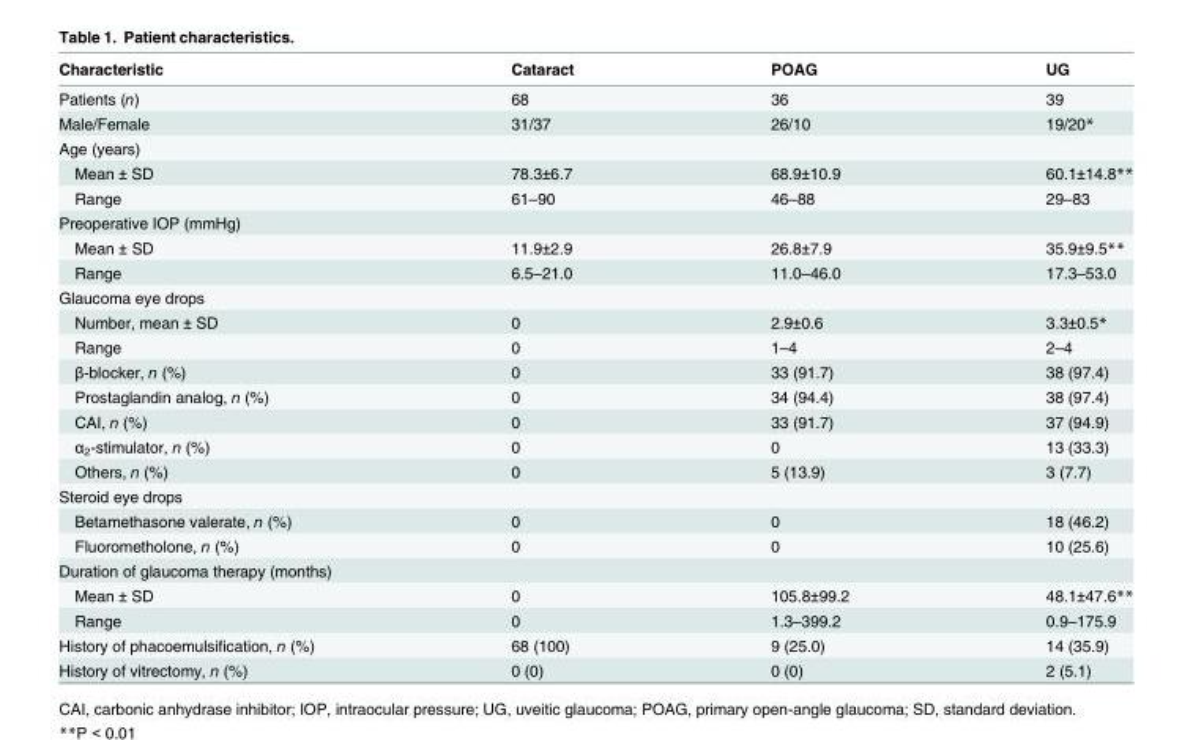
<table><thead><tr><td>Characteristic</td><td>Cataract</td><td>POAG</td><td>UG</td></tr></thead><tbody><tr><td>Patients (n)</td><td>68</td><td>36</td><td>39</td></tr><tr><td>Male/Female</td><td>31/37</td><td>26/10</td><td>19/20*</td></tr><tr><td colspan="4">Age (years)</td></tr><tr><td>Mean ± SD</td><td>78.3±6.7</td><td>68.9±10.9</td><td>60.1±14.8**</td></tr><tr><td>Range</td><td>61–90</td><td>46–88</td><td>29–83</td></tr><tr><td colspan="4">Preoperative IOP (mmHg)</td></tr><tr><td>Mean ± SD</td><td>11.9±2.9</td><td>26.8±7.9</td><td>35.9±9.5**</td></tr><tr><td>Range</td><td>6.5–21.0</td><td>11.0–46.0</td><td>17.3–53.0</td></tr><tr><td colspan="4">Glaucoma eye drops</td></tr><tr><td>Number, mean ± SD</td><td>0</td><td>2.9±0.6</td><td>3.3±0.5*</td></tr><tr><td>Range</td><td>0</td><td>1–4</td><td>2–4</td></tr><tr><td>β-blocker, n (%)</td><td>0</td><td>33 (91.7)</td><td>38 (97.4)</td></tr><tr><td>Prostaglandin analog, n (%)</td><td>0</td><td>34 (94.4)</td><td>38 (97.4)</td></tr><tr><td>CAI, n (%)</td><td>0</td><td>33 (91.7)</td><td>37 (94.9)</td></tr><tr><td>α<sub>2</sub>-stimulator, n (%)</td><td>0</td><td>0</td><td>13 (33.3)</td></tr><tr><td>Others, n (%)</td><td>0</td><td>5 (13.9)</td><td>3 (7.7)</td></tr><tr><td colspan="4">Steroid eye drops</td></tr><tr><td>Betamethasone valerate, n (%)</td><td>0</td><td>0</td><td>18 (46.2)</td></tr><tr><td>Fluorometholone, n (%)</td><td>0</td><td>0</td><td>10 (25.6)</td></tr><tr><td colspan="4">Duration of glaucoma therapy (months)</td></tr><tr><td>Mean ± SD</td><td>0</td><td>105.8±99.2</td><td>48.1±47.6**</td></tr><tr><td>Range</td><td>0</td><td>1.3–399.2</td><td>0.9–175.9</td></tr><tr><td>History of phacoemulsification, n (%)</td><td>68 (100)</td><td>9 (25.0)</td><td>14 (35.9)</td></tr><tr><td>History of vitrectomy, n (%)</td><td>0 (0)</td><td>0 (0)</td><td>2 (5.1)</td></tr></tbody></table>